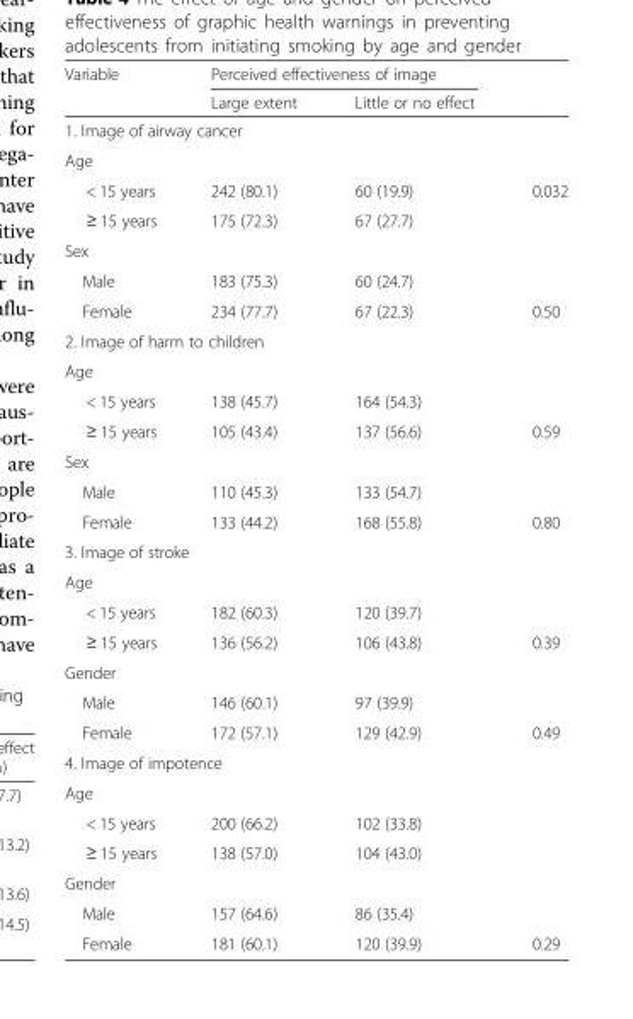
<table><thead><tr><td rowspan="2">Variable</td><td colspan="2">Perceived effectiveness of image</td><td rowspan="2"></td></tr><tr><td>Large extent</td><td>Little or no effect</td></tr></thead><tbody><tr><td colspan="4">1. Image of airway cancer</td></tr><tr><td colspan="4">Age</td></tr><tr><td>&lt; 15 years</td><td>242 (80.1)</td><td>60 (19.9)</td><td>0.032</td></tr><tr><td>≥ 15 years</td><td>175 (72.3)</td><td>67 (27.7)</td><td></td></tr><tr><td colspan="4">Sex</td></tr><tr><td>Male</td><td>183 (75.3)</td><td>60 (24.7)</td><td></td></tr><tr><td>Female</td><td>234 (77.7)</td><td>67 (22.3)</td><td>0.50</td></tr><tr><td colspan="4">2. Image of harm to children</td></tr><tr><td colspan="4">Age</td></tr><tr><td>&lt; 15 years</td><td>138 (45.7)</td><td>164 (54.3)</td><td></td></tr><tr><td>≥ 15 years</td><td>105 (43.4)</td><td>137 (56.6)</td><td>0.59</td></tr><tr><td colspan="4">Sex</td></tr><tr><td>Male</td><td>110 (45.3)</td><td>133 (54.7)</td><td></td></tr><tr><td>Female</td><td>133 (44.2)</td><td>168 (55.8)</td><td>0.80</td></tr><tr><td colspan="4">3. Image of stroke</td></tr><tr><td colspan="4">Age</td></tr><tr><td>&lt; 15 years</td><td>182 (60.3)</td><td>120 (39.7)</td><td></td></tr><tr><td>≥ 15 years</td><td>136 (56.2)</td><td>106 (43.8)</td><td>0.39</td></tr><tr><td colspan="4">Gender</td></tr><tr><td>Male</td><td>146 (60.1)</td><td>97 (39.9)</td><td></td></tr><tr><td>Female</td><td>172 (57.1)</td><td>129 (42.9)</td><td>0.49</td></tr><tr><td colspan="4">4. Image of impotence</td></tr><tr><td colspan="4">Age</td></tr><tr><td>&lt; 15 years</td><td>200 (66.2)</td><td>102 (33.8)</td><td></td></tr><tr><td>≥ 15 years</td><td>138 (57.0)</td><td>104 (43.0)</td><td></td></tr><tr><td colspan="4">Gender</td></tr><tr><td>Male</td><td>157 (64.6)</td><td>86 (35.4)</td><td></td></tr><tr><td>Female</td><td>181 (60.1)</td><td>120 (39.9)</td><td>0.29</td></tr></tbody></table>